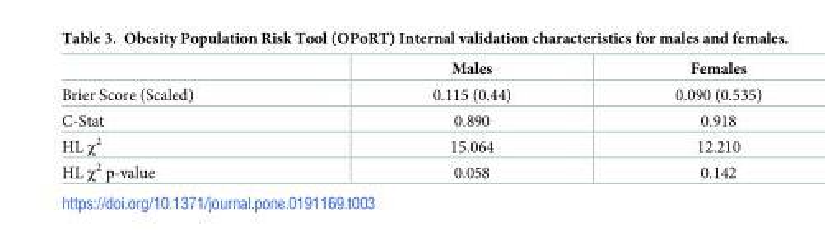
<table><thead><tr><td></td><td>Males</td><td>Females</td></tr></thead><tbody><tr><td>Brier Score (Scaled)</td><td>0.115 (0.44)</td><td>0.090 (0.535)</td></tr><tr><td>C-Stat</td><td>0.890</td><td>0.918</td></tr><tr><td>HL χ<sup>2</sup></td><td>15.064</td><td>12.210</td></tr><tr><td>HL χ<sup>2</sup> p-value</td><td>0.058</td><td>0.142</td></tr></tbody></table>